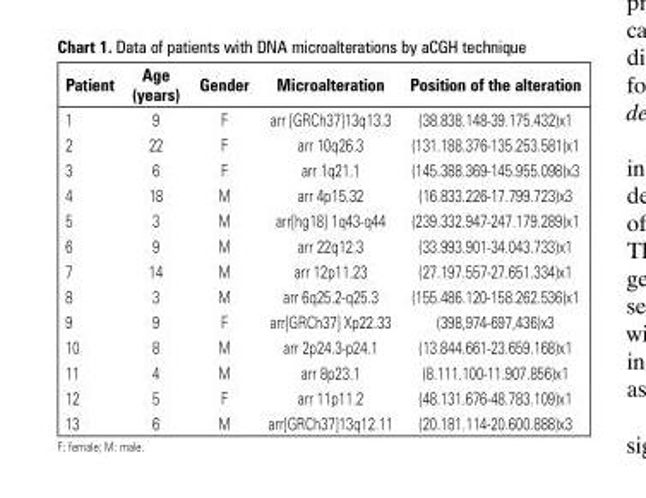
<table><thead><tr><td>Patient</td><td>Age (years)</td><td>Gender</td><td>Microalteration</td><td>Position of the alteration</td></tr></thead><tbody><tr><td>1</td><td>9</td><td>F</td><td>arr [GRCh37]13q13.3</td><td>(38.838.148-39.175.432)x1</td></tr><tr><td>2</td><td>22</td><td>F</td><td>arr 10q26.3</td><td>(131.188.376-135.253.581)x1</td></tr><tr><td>3</td><td>6</td><td>F</td><td>arr 1q21.1</td><td>(145.388.369-145.955.098)x3</td></tr><tr><td>4</td><td>18</td><td>M</td><td>arr 4p15.32</td><td>(16.833.226-17.799.723)x3</td></tr><tr><td>5</td><td>3</td><td>M</td><td>arr[hg18] 1q43-q44</td><td>(239.332.947-247.179.289)x1</td></tr><tr><td>6</td><td>9</td><td>M</td><td>arr 22q12.3</td><td>(33.993.901-34.043.733)x1</td></tr><tr><td>7</td><td>14</td><td>M</td><td>arr 12p11.23</td><td>(27.197.557-27.651.334)x1</td></tr><tr><td>8</td><td>3</td><td>M</td><td>arr 6q25.2-q25.3</td><td>(155.486.120-158.262.536)x1</td></tr><tr><td>9</td><td>9</td><td>F</td><td>arr[GRCh37] Xp22.33</td><td>(398,974-697,436)x3</td></tr><tr><td>10</td><td>8</td><td>M</td><td>arr 2p24.3-p24.1</td><td>(13.844.661-23.659.168)x1</td></tr><tr><td>11</td><td>4</td><td>M</td><td>arr 8p23.1</td><td>(8.111.100-11.907.856)x1</td></tr><tr><td>12</td><td>5</td><td>F</td><td>arr 11p11.2</td><td>(48.131.676-48.783.109)x1</td></tr><tr><td>13</td><td>6</td><td>M</td><td>arr[GRCh37]13q12.11</td><td>(20.181.114-20.600.888)x3</td></tr></tbody></table>